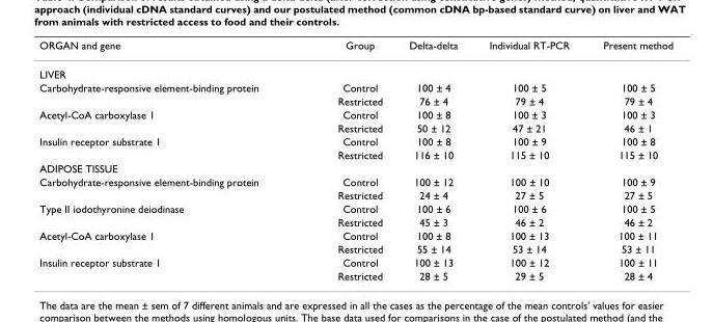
<table><thead><tr><td>ORGAN and gene</td><td>Group</td><td>Delta-delta</td><td>Individual RT-PCR</td><td>Present method</td></tr></thead><tbody><tr><td colspan="5">LIVER</td></tr><tr><td rowspan="2">Carbohydrate-responsive element-binding protein</td><td>Control</td><td>100 ± 4</td><td>100 ± 5</td><td>100 ± 5</td></tr><tr><td>Restricted</td><td>76 ± 4</td><td>79 ± 4</td><td>79 ± 4</td></tr><tr><td rowspan="2">Acetyl-CoA carboxylase 1</td><td>Control</td><td>100 ± 8</td><td>100 ± 3</td><td>100 ± 3</td></tr><tr><td>Restricted</td><td>50 ± 12</td><td>47 ± 21</td><td>46 ± 1</td></tr><tr><td rowspan="2">Insulin receptor substrate 1</td><td>Control</td><td>100 ± 8</td><td>100 ± 9</td><td>100 ± 8</td></tr><tr><td>Restricted</td><td>116 ± 10</td><td>115 ± 10</td><td>115 ± 10</td></tr><tr><td colspan="5">ADIPOSE TISSUE</td></tr><tr><td rowspan="2">Carbohydrate-responsive element-binding protein</td><td>Control</td><td>100 ± 12</td><td>100 ± 10</td><td>100 ± 9</td></tr><tr><td>Restricted</td><td>24 ± 4</td><td>27 ± 5</td><td>27 ± 5</td></tr><tr><td rowspan="2">Type II iodothyronine deiodinase</td><td>Control</td><td>100 ± 6</td><td>100 ± 6</td><td>100 ± 5</td></tr><tr><td>Restricted</td><td>45 ± 3</td><td>46 ± 2</td><td>46 ± 2</td></tr><tr><td rowspan="2">Acetyl-CoA carboxylase 1</td><td>Control</td><td>100 ± 8</td><td>100 ± 13</td><td>100 ± 11</td></tr><tr><td>Restricted</td><td>55 ± 14</td><td>53 ± 14</td><td>53 ± 11</td></tr><tr><td rowspan="2">Insulin receptor substrate 1</td><td>Control</td><td>100 ± 13</td><td>100 ± 12</td><td>100 ± 11</td></tr><tr><td>Restricted</td><td>28 ± 5</td><td>29 ± 5</td><td>28 ± 4</td></tr></tbody></table>